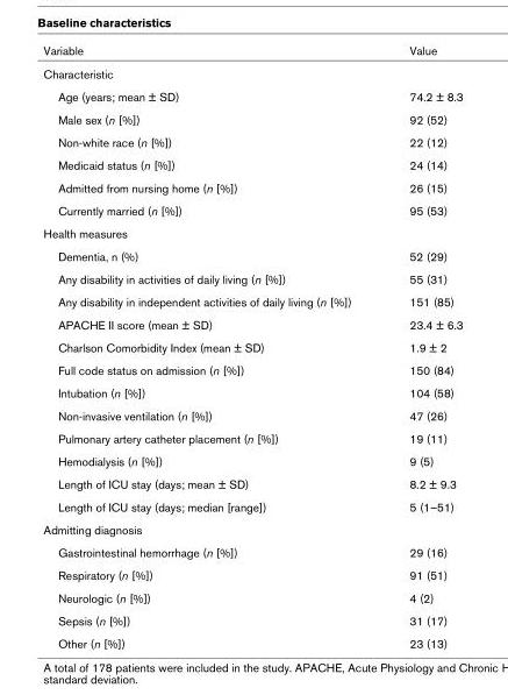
<table><thead><tr><td>Variable</td><td>Value</td></tr></thead><tbody><tr><td colspan="2">Characteristic</td></tr><tr><td>Age (years; mean ± SD)</td><td>74.2 ± 8.3</td></tr><tr><td>Male sex (n [%])</td><td>92 (52)</td></tr><tr><td>Non-white race (n [%])</td><td>22 (12)</td></tr><tr><td>Medicaid status (n [%])</td><td>24 (14)</td></tr><tr><td>Admitted from nursing home (n [%])</td><td>26 (15)</td></tr><tr><td>Currently married (n [%])</td><td>95 (53)</td></tr><tr><td colspan="2">Health measures</td></tr><tr><td>Dementia, n (%)</td><td>52 (29)</td></tr><tr><td>Any disability in activities of daily living (n [%])</td><td>55 (31)</td></tr><tr><td>Any disability in independent activities of daily living (n [%])</td><td>151 (85)</td></tr><tr><td>APACHE II score (mean ± SD)</td><td>23.4 ± 6.3</td></tr><tr><td>Charlson Comorbidity Index (mean ± SD)</td><td>1.9 ± 2</td></tr><tr><td>Full code status on admission (n [%])</td><td>150 (84)</td></tr><tr><td>Intubation (n [%])</td><td>104 (58)</td></tr><tr><td>Non-invasive ventilation (n [%])</td><td>47 (26)</td></tr><tr><td>Pulmonary artery catheter placement (n [%])</td><td>19 (11)</td></tr><tr><td>Hemodialysis (n [%])</td><td>9 (5)</td></tr><tr><td>Length of ICU stay (days; mean ± SD)</td><td>8.2 ± 9.3</td></tr><tr><td>Length of ICU stay (days; median [range])</td><td>5 (1–51)</td></tr><tr><td colspan="2">Admitting diagnosis</td></tr><tr><td>Gastrointestinal hemorrhage (n [%])</td><td>29 (16)</td></tr><tr><td>Respiratory (n [%])</td><td>91 (51)</td></tr><tr><td>Neurologic (n [%])</td><td>4 (2)</td></tr><tr><td>Sepsis (n [%])</td><td>31 (17)</td></tr><tr><td>Other (n [%])</td><td>23 (13)</td></tr></tbody></table>